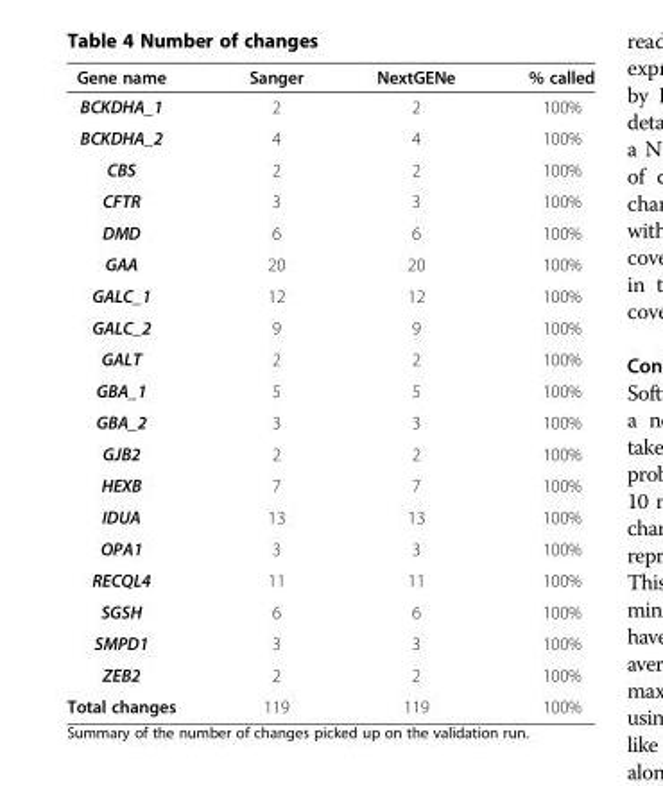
<table><thead><tr><td>Gene name</td><td>Sanger</td><td>NextGENe</td><td>% called</td></tr></thead><tbody><tr><td>BCKDHA_1</td><td>2</td><td>2</td><td>100%</td></tr><tr><td>BCKDHA_2</td><td>4</td><td>4</td><td>100%</td></tr><tr><td>CBS</td><td>2</td><td>2</td><td>100%</td></tr><tr><td>CFTR</td><td>3</td><td>3</td><td>100%</td></tr><tr><td>DMD</td><td>6</td><td>6</td><td>100%</td></tr><tr><td>GAA</td><td>20</td><td>20</td><td>100%</td></tr><tr><td>GALC_1</td><td>12</td><td>12</td><td>100%</td></tr><tr><td>GALC_2</td><td>9</td><td>9</td><td>100%</td></tr><tr><td>GALT</td><td>2</td><td>2</td><td>100%</td></tr><tr><td>GBA_1</td><td>5</td><td>5</td><td>100%</td></tr><tr><td>GBA_2</td><td>3</td><td>3</td><td>100%</td></tr><tr><td>GJB2</td><td>2</td><td>2</td><td>100%</td></tr><tr><td>HEXB</td><td>7</td><td>7</td><td>100%</td></tr><tr><td>IDUA</td><td>13</td><td>13</td><td>100%</td></tr><tr><td>OPA1</td><td>3</td><td>3</td><td>100%</td></tr><tr><td>RECQL4</td><td>11</td><td>11</td><td>100%</td></tr><tr><td>SGSH</td><td>6</td><td>6</td><td>100%</td></tr><tr><td>SMPD1</td><td>3</td><td>3</td><td>100%</td></tr><tr><td>ZEB2</td><td>2</td><td>2</td><td>100%</td></tr><tr><td>Total changes</td><td>119</td><td>119</td><td>100%</td></tr></tbody></table>